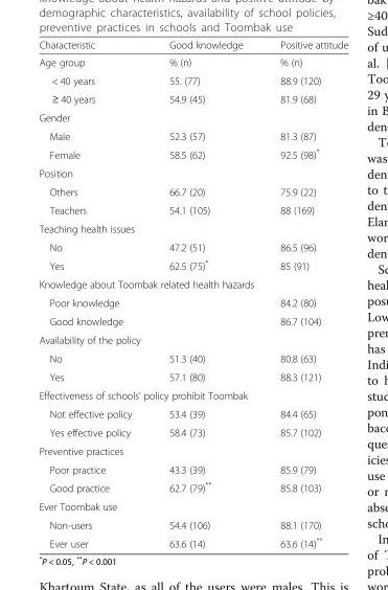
<table><thead><tr><td>Characteristic</td><td>Good knowledge</td><td>Positive attitude</td></tr></thead><tbody><tr><td>Age group</td><td>% (n)</td><td>% (n)</td></tr><tr><td>&lt; 40 years</td><td>55. (77)</td><td>88.9 (120)</td></tr><tr><td>≥ 40 years</td><td>54.9 (45)</td><td>81.9 (68)</td></tr><tr><td colspan="3">Gender</td></tr><tr><td>Male</td><td>52.3 (57)</td><td>81.3 (87)</td></tr><tr><td>Female</td><td>58.5 (62)</td><td>92.5 (98)*</td></tr><tr><td colspan="3">Position</td></tr><tr><td>Others</td><td>66.7 (20)</td><td>75.9 (22)</td></tr><tr><td>Teachers</td><td>54.1 (105)</td><td>88 (169)</td></tr><tr><td colspan="3">Teaching health issues</td></tr><tr><td>No</td><td>47.2 (51)</td><td>86.5 (96)</td></tr><tr><td>Yes</td><td>62.5 (75)*</td><td>85 (91)</td></tr><tr><td colspan="3">Knowledge about Toombak related health hazards</td></tr><tr><td>Poor knowledge</td><td></td><td>84.2 (80)</td></tr><tr><td>Good knowledge</td><td></td><td>86.7 (104)</td></tr><tr><td colspan="3">Availability of the policy</td></tr><tr><td>No</td><td>51.3 (40)</td><td>80.8 (63)</td></tr><tr><td>Yes</td><td>57.1 (80)</td><td>88.3 (121)</td></tr><tr><td colspan="3">Effectiveness of schools’ policy prohibit Toombak</td></tr><tr><td>Not effective policy</td><td>53.4 (39)</td><td>84.4 (65)</td></tr><tr><td>Yes effective policy</td><td>58.4 (73)</td><td>85.7 (102)</td></tr><tr><td colspan="3">Preventive practices</td></tr><tr><td>Poor practice</td><td>43.3 (39)</td><td>85.9 (79)</td></tr><tr><td>Good practice</td><td>62.7 (79)**</td><td>85.8 (103)</td></tr><tr><td colspan="3">Ever Toombak use</td></tr><tr><td>Non-users</td><td>54.4 (106)</td><td>88.1 (170)</td></tr><tr><td>Ever user</td><td>63.6 (14)</td><td>63.6 (14)**</td></tr></tbody></table>